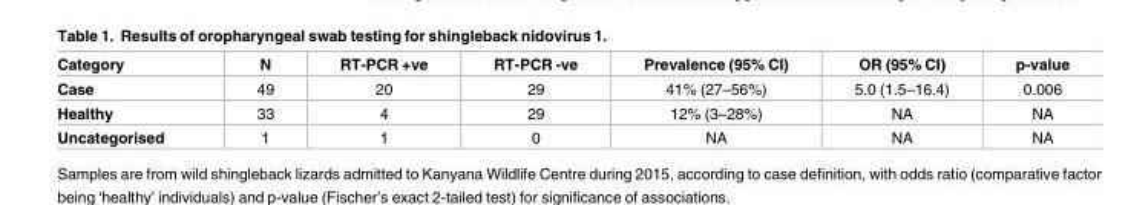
<table><thead><tr><td>Category</td><td>N</td><td>RT-PCR +ve</td><td>RT-PCR -ve</td><td>Prevalence (95% CI)</td><td>OR (95% CI)</td><td>p-value</td></tr></thead><tbody><tr><td>Case</td><td>49</td><td>20</td><td>29</td><td>41% (27–56%)</td><td>5.0 (1.5–16.4)</td><td>0.006</td></tr><tr><td>Healthy</td><td>33</td><td>4</td><td>29</td><td>12% (3–28%)</td><td>NA</td><td>NA</td></tr><tr><td>Uncategorised</td><td>1</td><td>1</td><td>0</td><td>NA</td><td>NA</td><td>NA</td></tr></tbody></table>